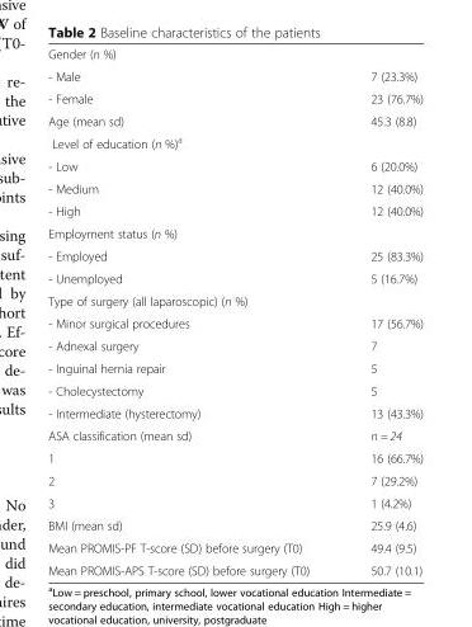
<table><tbody><tr><td colspan="2">Gender (n %)</td></tr><tr><td>- Male</td><td>7 (23.3%)</td></tr><tr><td>- Female</td><td>23 (76.7%)</td></tr><tr><td>Age (mean sd)</td><td>45.3 (8.8)</td></tr><tr><td colspan="2">Level of education (n %)<sup>a</sup></td></tr><tr><td>- Low</td><td>6 (20.0%)</td></tr><tr><td>- Medium</td><td>12 (40.0%)</td></tr><tr><td>- High</td><td>12 (40.0%)</td></tr><tr><td colspan="2">Employment status (n %)</td></tr><tr><td>- Employed</td><td>25 (83.3%)</td></tr><tr><td>- Unemployed</td><td>5 (16.7%)</td></tr><tr><td colspan="2">Type of surgery (all laparoscopic) (n %)</td></tr><tr><td>- Minor surgical procedures</td><td>17 (56.7%)</td></tr><tr><td>- Adnexal surgery</td><td>7</td></tr><tr><td>- Inguinal hernia repair</td><td>5</td></tr><tr><td>- Cholecystectomy</td><td>5</td></tr><tr><td>- Intermediate (hysterectomy)</td><td>13 (43.3%)</td></tr><tr><td>ASA classification (mean sd)</td><td>n = 24</td></tr><tr><td>1</td><td>16 (66.7%)</td></tr><tr><td>2</td><td>7 (29.2%)</td></tr><tr><td>3</td><td>1 (4.2%)</td></tr><tr><td>BMI (mean sd)</td><td>25.9 (4.6)</td></tr><tr><td>Mean PROMIS-PF T-score (SD) before surgery (T0)</td><td>49.4 (9.5)</td></tr><tr><td>Mean PROMIS-APS T-score (SD) before surgery (T0)</td><td>50.7 (10.1)</td></tr></tbody></table>